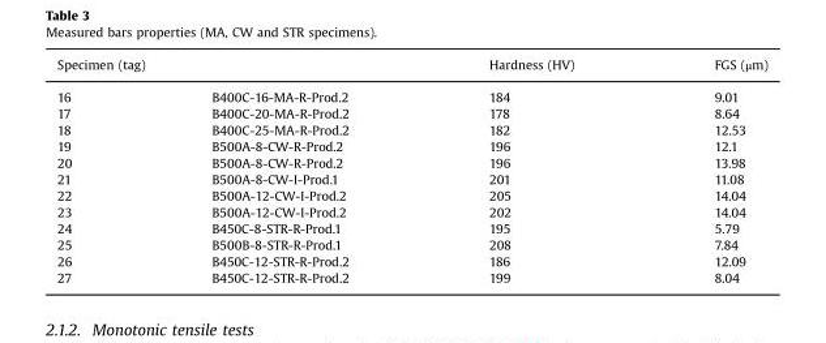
<table><thead><tr><td colspan="2">Specimen (tag)</td><td rowspan="2">Hardness (HV) 184</td><td rowspan="2">FGS (μm) 9.01</td></tr><tr><td>16</td><td>B400C-16-MA-R-Prod.2</td></tr></thead><tbody><tr><td>17</td><td>B400C-20-MA-R-Prod.2</td><td>178</td><td>8.64</td></tr><tr><td>18</td><td>B400C-25-MA-R-Prod.2</td><td>182</td><td>12.53</td></tr><tr><td>19</td><td>B500A-8-CW-R-Prod.2</td><td>196</td><td>12.1</td></tr><tr><td>20</td><td>B500A-8-CW-R-Prod.2</td><td>196</td><td>13.98</td></tr><tr><td>21</td><td>B500A-8-CW-I-Prod.1</td><td>201</td><td>11.08</td></tr><tr><td>22</td><td>B500A-12-CW-I-Prod.2</td><td>205</td><td>14.04</td></tr><tr><td>23</td><td>B500A-12-CW-I-Prod.2</td><td>202</td><td>14.04</td></tr><tr><td>24</td><td>B450C-8-STR-R-Prod.1</td><td>195</td><td>5.79</td></tr><tr><td>25</td><td>B500B-8-STR-R-Prod.1</td><td>208</td><td>7.84</td></tr><tr><td>26</td><td>B450C-12-STR-R-Prod.2</td><td>186</td><td>12.09</td></tr><tr><td>27</td><td>B450C-12-STR-R-Prod.2</td><td>199</td><td>8.04</td></tr></tbody></table>